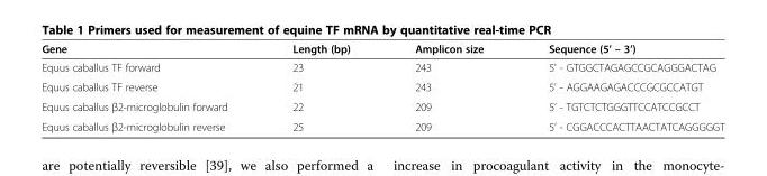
<table><thead><tr><td>Gene</td><td>Length (bp)</td><td>Amplicon size</td><td>Sequence (5’ – 3’)</td></tr></thead><tbody><tr><td>Equus caballus TF forward</td><td>23</td><td>243</td><td>5&#x27; - GTGGCTAGAGCCGCAGGGACTAG</td></tr><tr><td>Equus caballus TF reverse</td><td>21</td><td>243</td><td>5&#x27; - AGGAAGAGACCCGCGCCATGT</td></tr><tr><td>Equus caballus β2-microglobulin forward</td><td>22</td><td>209</td><td>5’ - TGTCTCTGGGTTCCATCCGCCT</td></tr><tr><td>Equus caballus β2-microglobulin reverse</td><td>25</td><td>209</td><td>5’ - CGGACCCACTTAACTATCAGGGGGT</td></tr></tbody></table>